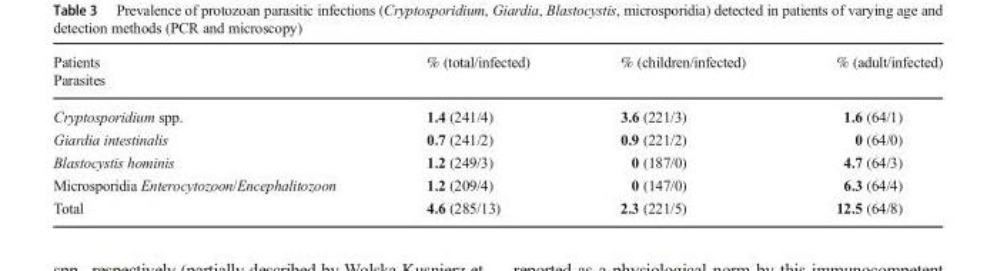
<table><thead><tr><td rowspan="2">Patients Parasites</td><td rowspan="2">% (total/infected)</td><td rowspan="2">% (children/infected)</td><td rowspan="2">% (adult/infected)</td></tr><tr></tr></thead><tbody><tr><td>Cryptosporidium spp.</td><td>1.4 (241/4)</td><td>3.6 (221/3)</td><td>1.6 (64/1)</td></tr><tr><td>Giardia intestinalis</td><td>0.7 (241/2)</td><td>0.9 (221/2)</td><td>0 (64/0)</td></tr><tr><td>Blastocystis hominis</td><td>1.2 (249/3)</td><td>0 (187/0)</td><td>4.7 (64/3)</td></tr><tr><td>Microsporidia Enterocytozoon/Encephalitozoon</td><td>1.2 (209/4)</td><td>0 (147/0)</td><td>6.3 (64/4)</td></tr><tr><td>Total</td><td>4.6 (285/13)</td><td>2.3 (221/5)</td><td>12.5 (64/8)</td></tr></tbody></table>